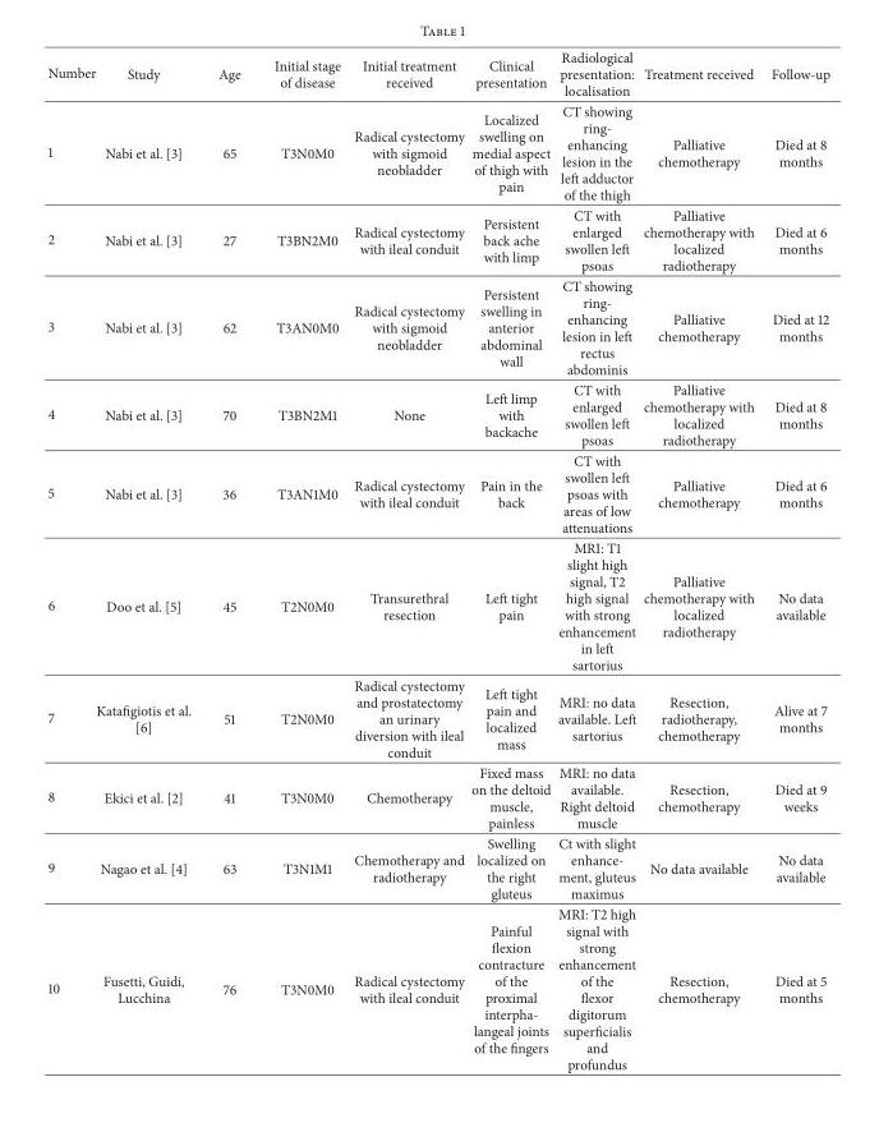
<table><thead><tr><td>Number</td><td>Study</td><td>Age</td><td>Initial stage of disease</td><td>Initial treatment received</td><td>Clinical presentation</td><td>Radiological presentation: localisation</td><td>Treatment received</td><td>Follow-up</td></tr></thead><tbody><tr><td>1</td><td>Nabi et al. [3]</td><td>65</td><td>T3N0M0</td><td>Radical cystectomy with sigmoid neobladder</td><td>Localized swelling on medial aspect of thigh with pain</td><td>CT showing ring- enhancing lesion in the left adductor of the thigh</td><td>Palliative chemotherapy</td><td>Died at 8 months</td></tr><tr><td>2</td><td>Nabi et al. [3]</td><td>27</td><td>T3BN2M0</td><td>Radical cystectomy with ileal conduit</td><td>Persistent back ache with limp</td><td>CT with enlarged swollen left psoas</td><td>Palliative chemotherapy with localized radiotherapy</td><td>Died at 6 months</td></tr><tr><td>3</td><td>Nabi et al. [3]</td><td>62</td><td>T3AN0M0</td><td>Radical cystectomy with sigmoid neobladder</td><td>Persistent swelling in anterior abdominal wall</td><td>CT showing ring- enhancing lesion in left rectus abdominis</td><td>Palliative chemotherapy</td><td>Died at 12 months</td></tr><tr><td>4</td><td>Nabi et al. [3]</td><td>70</td><td>T3BN2M1</td><td>None</td><td>Left limp with backache</td><td>CT with enlarged swollen left psoas</td><td>Palliative chemotherapy with localized radiotherapy</td><td>Died at 8 months</td></tr><tr><td>5</td><td>Nabi et al. [3]</td><td>36</td><td>T3AN1M0</td><td>Radical cystectomy with ileal conduit</td><td>Pain in the back</td><td>CT with swollen left psoas with areas of low attenuations</td><td>Palliative chemotherapy</td><td>Died at 6 months</td></tr><tr><td>6</td><td>Doo et al. [5]</td><td>45</td><td>T2N0M0</td><td>Transurethral resection</td><td>Left tight pain</td><td>MRI: T1 slight high signal, T2 high signal with strong enhancement in left sartorius</td><td>Palliative chemotherapy with localized radiotherapy</td><td>No data available</td></tr><tr><td>7</td><td>Katafigiotis et al. [6]</td><td>51</td><td>T2N0M0</td><td>Radical cystectomy and prostatectomy an urinary diversion with ileal conduit</td><td>Left tight pain and localized mass</td><td>MRI: no data available. Left sartorius</td><td>Resection, radiotherapy, chemotherapy</td><td>Alive at 7 months</td></tr><tr><td>8</td><td>Ekici et al. [2]</td><td>41</td><td>T3N0M0</td><td>Chemotherapy</td><td>Fixed mass on the deltoid muscle, painless</td><td>MRI: no data available. Right deltoid muscle</td><td>Resection, chemotherapy</td><td>Died at 9 weeks</td></tr><tr><td>9</td><td>Nagao et al. [4]</td><td>63</td><td>T3N1M1</td><td>Chemotherapy and radiotherapy</td><td>Swelling localized on the right gluteus</td><td>Ct with slight enhance- ment, gluteus maximus</td><td>No data available</td><td>No data available</td></tr><tr><td>10</td><td>Fusetti, Guidi, Lucchina</td><td>76</td><td>T3N0M0</td><td>Radical cystectomy with ileal conduit</td><td>Painful flexion contracture of the proximal interpha- langeal joints of the fingers</td><td>MRI: T2 high signal with strong enhancement of the flexor digitorum superficialis and profundus</td><td>Resection, chemotherapy</td><td>Died at 5 months</td></tr></tbody></table>